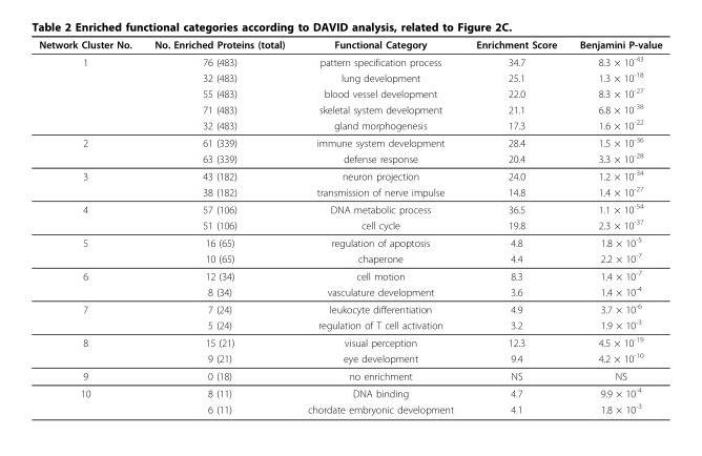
<table><thead><tr><td>Network Cluster No.</td><td>No. Enriched Proteins (total)</td><td>Functional Category</td><td>Enrichment Score</td><td>Benjamini P-value</td></tr></thead><tbody><tr><td rowspan="5">1</td><td>76 (483)</td><td>pattern specification process</td><td>34.7</td><td>8.3 × 10<sup>-43</sup></td></tr><tr><td>32 (483)</td><td>lung development</td><td>25.1</td><td>1.3 × 10<sup>-18</sup></td></tr><tr><td>55 (483)</td><td>blood vessel development</td><td>22.0</td><td>8.3 × 10<sup>-27</sup></td></tr><tr><td>71 (483)</td><td>skeletal system development</td><td>21.1</td><td>6.8 × 10<sup>-38</sup></td></tr><tr><td>32 (483)</td><td>gland morphogenesis</td><td>17.3</td><td>1.6 × 10<sup>-22</sup></td></tr><tr><td rowspan="2">2</td><td>61 (339)</td><td>immune system development</td><td>28.4</td><td>1.5 × 10<sup>-36</sup></td></tr><tr><td>63 (339)</td><td>defense response</td><td>20.4</td><td>3.3 × 10<sup>-28</sup></td></tr><tr><td rowspan="2">3</td><td>43 (182)</td><td>neuron projection</td><td>24.0</td><td>1.2 × 10<sup>-34</sup></td></tr><tr><td>38 (182)</td><td>transmission of nerve impulse</td><td>14.8</td><td>1.4 × 10<sup>-27</sup></td></tr><tr><td rowspan="2">4</td><td>57 (106)</td><td>DNA metabolic process</td><td>36.5</td><td>1.1 × 10<sup>-54</sup></td></tr><tr><td>51 (106)</td><td>cell cycle</td><td>19.8</td><td>2.3 × 10<sup>-37</sup></td></tr><tr><td rowspan="2">5</td><td>16 (65)</td><td>regulation of apoptosis</td><td>4.8</td><td>1.8 × 10<sup>-5</sup></td></tr><tr><td>10 (65)</td><td>chaperone</td><td>4.4</td><td>2.2 × 10<sup>-7</sup></td></tr><tr><td rowspan="2">6</td><td>12 (34)</td><td>cell motion</td><td>8.3</td><td>1.4 × 10<sup>-7</sup></td></tr><tr><td>8 (34)</td><td>vasculature development</td><td>3.6</td><td>1.4 × 10<sup>-4</sup></td></tr><tr><td rowspan="2">7</td><td>7 (24)</td><td>leukocyte differentiation</td><td>4.9</td><td>3.7 × 10<sup>-6</sup></td></tr><tr><td>5 (24)</td><td>regulation of T cell activation</td><td>3.2</td><td>1.9 × 10<sup>-3</sup></td></tr><tr><td rowspan="2">8</td><td>15 (21)</td><td>visual perception</td><td>12.3</td><td>4.5 × 10<sup>-19</sup></td></tr><tr><td>9 (21)</td><td>eye development</td><td>9.4</td><td>4.2 × 10<sup>-10</sup></td></tr><tr><td>9</td><td>0 (18)</td><td>no enrichment</td><td>NS</td><td>NS</td></tr><tr><td rowspan="2">10</td><td>8 (11)</td><td>DNA binding</td><td>4.7</td><td>9.9 × 10<sup>-4</sup></td></tr><tr><td>6 (11)</td><td>chordate embryonic development</td><td>4.1</td><td>1.8 × 10<sup>-3</sup></td></tr></tbody></table>